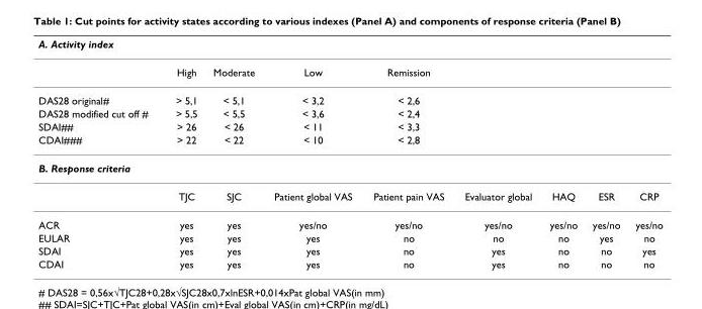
<table><thead><tr><td colspan="9">A. Activity index</td></tr><tr><td></td><td>High</td><td>Moderate</td><td>Low</td><td>Remission</td><td></td><td></td><td></td><td></td></tr></thead><tbody><tr><td>DAS28 original#</td><td>&gt; 5,1</td><td>&lt; 5,1</td><td>&lt; 3,2</td><td>&lt; 2,6</td><td></td><td></td><td></td><td></td></tr><tr><td>DAS28 modified cut off #</td><td>&gt; 5,5</td><td>&lt; 5,5</td><td>&lt; 3,6</td><td>&lt; 2,4</td><td></td><td></td><td></td><td></td></tr><tr><td>SDAI##</td><td>&gt; 26</td><td>&lt; 26</td><td>&lt; 11</td><td>&lt; 3,3</td><td></td><td></td><td></td><td></td></tr><tr><td>CDAI###</td><td>&gt; 22</td><td>&lt; 22</td><td>&lt; 10</td><td>&lt; 2,8</td><td></td><td></td><td></td><td></td></tr><tr><td colspan="9">B. Response criteria</td></tr><tr><td></td><td>TJC</td><td>SJC</td><td>Patient global VAS</td><td>Patient pain VAS</td><td>Evaluator global</td><td>HAQ</td><td>ESR</td><td>CRP</td></tr><tr><td>ACR</td><td>yes</td><td>yes</td><td>yes/no</td><td>yes/no</td><td>yes/no</td><td>yes/no</td><td>yes/no</td><td>yes/no</td></tr><tr><td>EULAR</td><td>yes</td><td>yes</td><td>yes</td><td>no</td><td>no</td><td>no</td><td>yes</td><td>no</td></tr><tr><td>SDAI</td><td>yes</td><td>yes</td><td>yes</td><td>no</td><td>yes</td><td>no</td><td>no</td><td>yes</td></tr><tr><td>CDAI</td><td>yes</td><td>yes</td><td>yes</td><td>no</td><td>yes</td><td>no</td><td>no</td><td>no</td></tr></tbody></table>